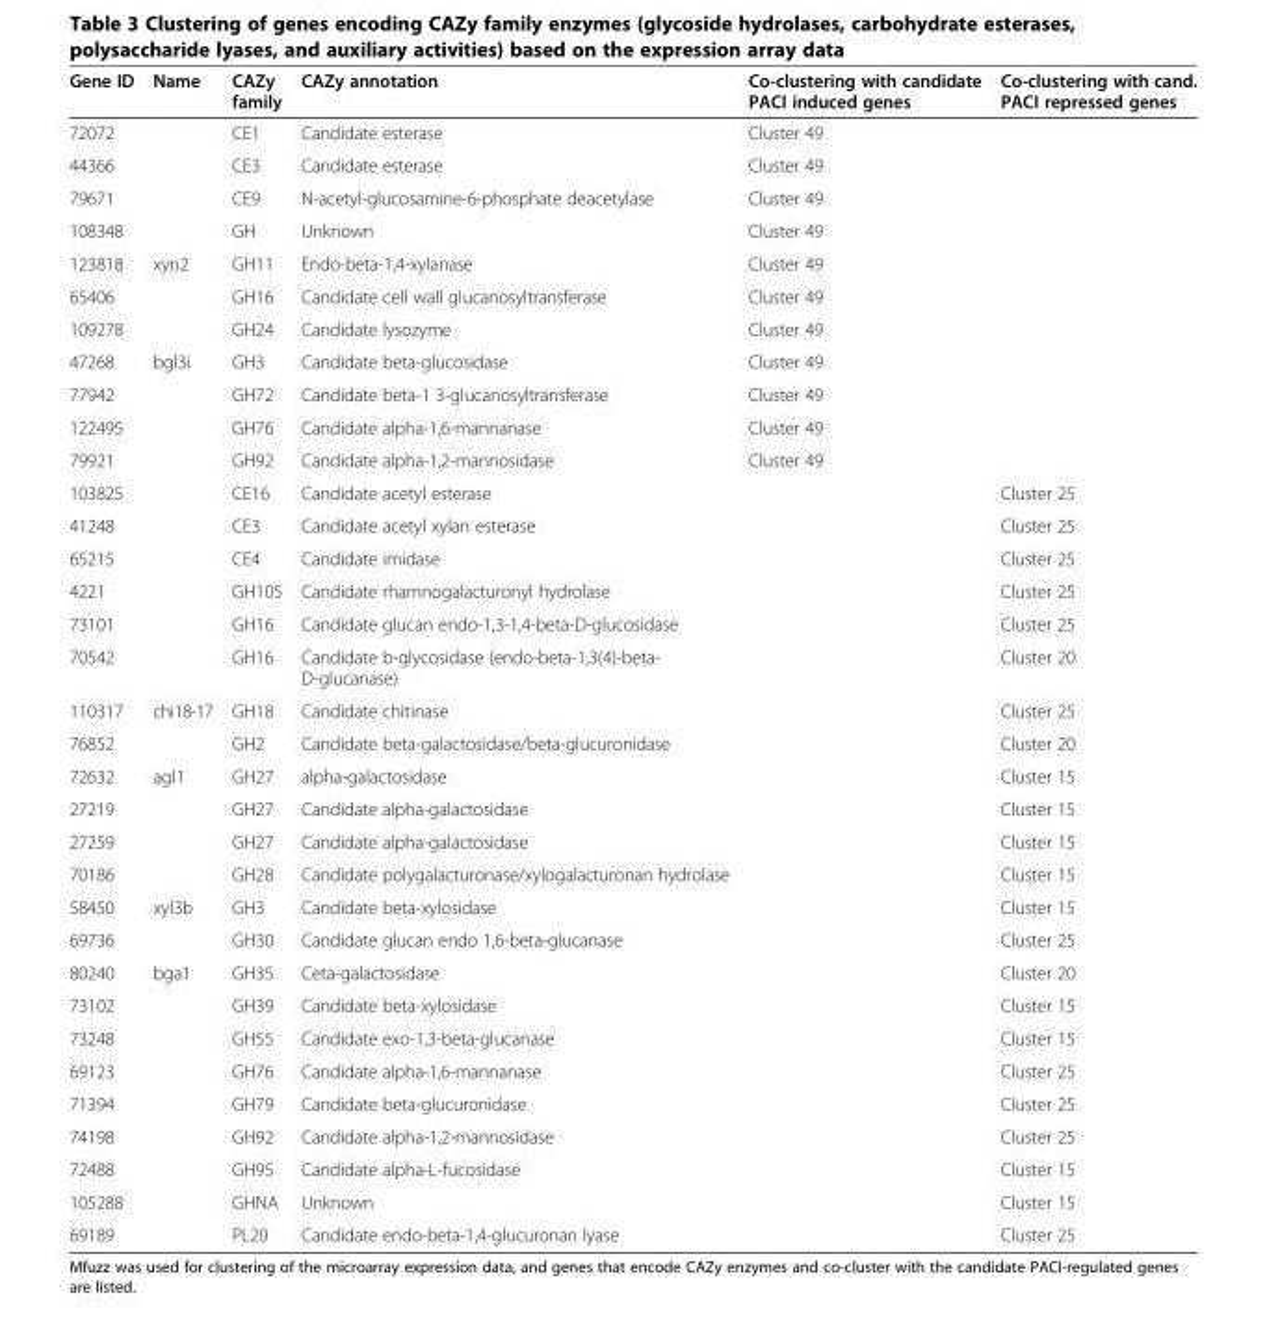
<table><thead><tr><td>Gene ID</td><td>Name</td><td>CAZy family</td><td>CAZy annotation</td><td>Co-clustering with candidate PACI induced genes</td><td>Co-clustering with cand. PACI repressed genes</td></tr></thead><tbody><tr><td>72072</td><td></td><td>CE1</td><td>Candidate esterase</td><td>Cluster 49</td><td></td></tr><tr><td>44366</td><td></td><td>CE3</td><td>Candidate esterase</td><td>Cluster 49</td><td></td></tr><tr><td>79671</td><td></td><td>CE9</td><td>N-acetyl-glucosamine-6-phosphate deacetylase</td><td>Cluster 49</td><td></td></tr><tr><td>108348</td><td></td><td>GH</td><td>Unknown</td><td>Cluster 49</td><td></td></tr><tr><td>123818</td><td>xyn2</td><td>GH11</td><td>Endo-beta-1,4-xylanase</td><td>Cluster 49</td><td></td></tr><tr><td>65406</td><td></td><td>GH16</td><td>Candidate cell wall glucanosyltransferase</td><td>Cluster 49</td><td></td></tr><tr><td>109278</td><td></td><td>GH24</td><td>Candidate lysozyme</td><td>Cluster 49</td><td></td></tr><tr><td>47268</td><td>bgl3i</td><td>GH3</td><td>Candidate beta-glucosidase</td><td>Cluster 49</td><td></td></tr><tr><td>77942</td><td></td><td>GH72</td><td>Candidate beta-1 3-glucanosyltransferase</td><td>Cluster 49</td><td></td></tr><tr><td>122495</td><td></td><td>GH76</td><td>Candidate alpha-1,6-mannanase</td><td>Cluster 49</td><td></td></tr><tr><td>79921</td><td></td><td>GH92</td><td>Candidate alpha-1,2-mannosidase</td><td>Cluster 49</td><td></td></tr><tr><td>103825</td><td></td><td>CE16</td><td>Candidate acetyl esterase</td><td></td><td>Cluster 25</td></tr><tr><td>41248</td><td></td><td>CE3</td><td>Candidate acetyl xylan esterase</td><td></td><td>Cluster 25</td></tr><tr><td>65215</td><td></td><td>CE4</td><td>Candidate imidase</td><td></td><td>Cluster 25</td></tr><tr><td>4221</td><td></td><td>GH105</td><td>Candidate rhamnogalacturonyl hydrolase</td><td></td><td>Cluster 25</td></tr><tr><td>73101</td><td></td><td>GH16</td><td>Candidate glucan endo-1,3-1,4-beta-D-glucosidase</td><td></td><td>Cluster 25</td></tr><tr><td>70542</td><td></td><td>GH16</td><td>Candidate b-glycosidase (endo-beta-1,3(4)-beta- D-glucanase)</td><td></td><td>Cluster 20</td></tr><tr><td>110317</td><td>chi18-17</td><td>GH18</td><td>Candidate chitinase</td><td></td><td>Cluster 25</td></tr><tr><td>76852</td><td></td><td>GH2</td><td>Candidate beta-galactosidase/beta-glucuronidase</td><td></td><td>Cluster 20</td></tr><tr><td>72632</td><td>agl1</td><td>GH27</td><td>alpha-galactosidase</td><td></td><td>Cluster 15</td></tr><tr><td>27219</td><td></td><td>GH27</td><td>Candidate alpha-galactosidase</td><td></td><td>Cluster 15</td></tr><tr><td>27259</td><td></td><td>GH27</td><td>Candidate alpha-galactosidase</td><td></td><td>Cluster 15</td></tr><tr><td>70186</td><td></td><td>GH28</td><td>Candidate polygalacturonase/xylogalacturonan hydrolase</td><td></td><td>Cluster 15</td></tr><tr><td>58450</td><td>xyl3b</td><td>GH3</td><td>Candidate beta-xylosidase</td><td></td><td>Cluster 15</td></tr><tr><td>69736</td><td></td><td>GH30</td><td>Candidate glucan endo 1,6-beta-glucanase</td><td></td><td>Cluster 25</td></tr><tr><td>80240</td><td>bga1</td><td>GH35</td><td>Ceta-galactosidase</td><td></td><td>Cluster 20</td></tr><tr><td>73102</td><td></td><td>GH39</td><td>Candidate beta-xylosidase</td><td></td><td>Cluster 15</td></tr><tr><td>73248</td><td></td><td>GH55</td><td>Candidate exo-1,3-beta-glucanase</td><td></td><td>Cluster 15</td></tr><tr><td>69123</td><td></td><td>GH76</td><td>Candidate alpha-1,6-mannanase</td><td></td><td>Cluster 25</td></tr><tr><td>71394</td><td></td><td>GH79</td><td>Candidate beta-glucuronidase</td><td></td><td>Cluster 25</td></tr><tr><td>74198</td><td></td><td>GH92</td><td>Candidate alpha-1,2-mannosidase</td><td></td><td>Cluster 25</td></tr><tr><td>72488</td><td></td><td>GH95</td><td>Candidate alpha-L-fucosidase</td><td></td><td>Cluster 15</td></tr><tr><td>105288</td><td></td><td>GHNA</td><td>Unknown</td><td></td><td>Cluster 15</td></tr><tr><td>69189</td><td></td><td>PL20</td><td>Candidate endo-beta-1,4-glucuronan lyase</td><td></td><td>Cluster 25</td></tr></tbody></table>